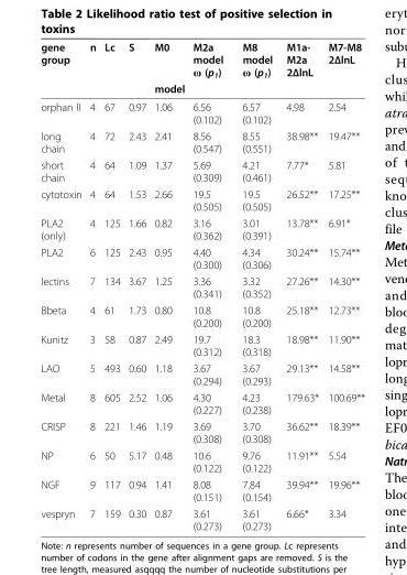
<table><thead><tr><td rowspan="2">gene group</td><td rowspan="2">n</td><td rowspan="2">Lc</td><td rowspan="2">S</td><td rowspan="2">M0 model</td><td rowspan="2">M2a model ω (p<sub>1</sub>)</td><td rowspan="2">M8 model ω (p<sub>1</sub>)</td><td rowspan="2">M1a- M2a 2ΔlnL</td><td rowspan="2">M7-M8 2ΔlnL</td></tr><tr></tr></thead><tbody><tr><td>orphan II</td><td>4</td><td>67</td><td>0.97</td><td>1.06</td><td>6.56 (0.102)</td><td>6.57 (0.102)</td><td>4.98</td><td>2.54</td></tr><tr><td>long chain</td><td>4</td><td>72</td><td>2.43</td><td>2.41</td><td>8.56 (0.547)</td><td>8.55 (0.551)</td><td>38.98**</td><td>19.47**</td></tr><tr><td>short chain</td><td>4</td><td>64</td><td>1.09</td><td>1.37</td><td>5.69 (0.309)</td><td>4.21 (0.461)</td><td>7.77*</td><td>5.81</td></tr><tr><td>cytotoxin</td><td>4</td><td>64</td><td>1.53</td><td>2.66</td><td>19.5 (0.505)</td><td>19.5 (0.505)</td><td>26.52**</td><td>17.25**</td></tr><tr><td>PLA2 (only)</td><td>4</td><td>125</td><td>1.66</td><td>0.82</td><td>3.16 (0.362)</td><td>3.01 (0.391)</td><td>13.78**</td><td>6.91*</td></tr><tr><td>PLA2</td><td>6</td><td>125</td><td>2.43</td><td>0.95</td><td>4.40 (0.300)</td><td>4.34 (0.306)</td><td>30.24**</td><td>15.74**</td></tr><tr><td>lectins</td><td>7</td><td>134</td><td>3.67</td><td>1.25</td><td>3.36 (0.341)</td><td>3.32 (0.352)</td><td>27.26**</td><td>14.30**</td></tr><tr><td>Bbeta</td><td>4</td><td>61</td><td>1.73</td><td>0.80</td><td>10.8 (0.200)</td><td>10.8 (0.200)</td><td>25.18**</td><td>12.73**</td></tr><tr><td>Kunitz</td><td>3</td><td>58</td><td>0.87</td><td>2.49</td><td>19.7 (0.312)</td><td>18.3 (0.318)</td><td>18.98**</td><td>11.90**</td></tr><tr><td>LAO</td><td>5</td><td>493</td><td>0.60</td><td>1.18</td><td>3.67 (0.294)</td><td>3.67 (0.293)</td><td>29.13**</td><td>14.58**</td></tr><tr><td>Metal</td><td>8</td><td>605</td><td>2.52</td><td>1.06</td><td>4.30 (0.227)</td><td>4.23 (0.238)</td><td>179.63*</td><td>100.69**</td></tr><tr><td>CRISP</td><td>8</td><td>221</td><td>1.46</td><td>1.19</td><td>3.69 (0.308)</td><td>3.70 (0.308)</td><td>36.62**</td><td>18.39**</td></tr><tr><td>NP</td><td>6</td><td>50</td><td>5.17</td><td>0.48</td><td>10.6 (0.122)</td><td>9.76 (0.122)</td><td>11.91**</td><td>5.54</td></tr><tr><td>NGF</td><td>9</td><td>117</td><td>0.94</td><td>1.41</td><td>8.08 (0.151)</td><td>7.84 (0.154)</td><td>39.94**</td><td>19.96**</td></tr><tr><td>vespryn</td><td>7</td><td>159</td><td>0.30</td><td>0.87</td><td>3.61 (0.273)</td><td>3.61 (0.273)</td><td>6.66*</td><td>3.34</td></tr></tbody></table>